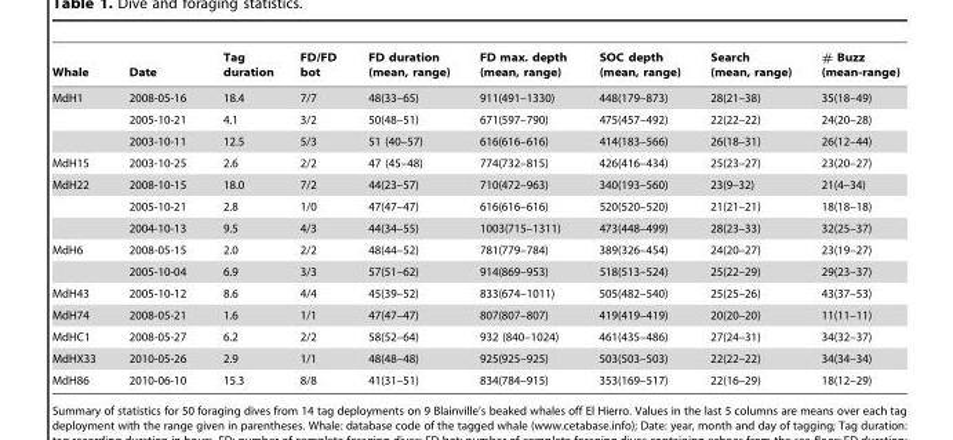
<table><thead><tr><td>Whale</td><td>Date</td><td>Tag duration</td><td>FD/FD bot</td><td>FD duration (mean, range)</td><td>FD max. depth (mean, range)</td><td>SOC depth (mean, range)</td><td>Search (mean, range)</td><td># Buzz (mean-range)</td></tr></thead><tbody><tr><td rowspan="3">MdH1</td><td>2008-05-16</td><td>18.4</td><td>7/7</td><td>48(33–65)</td><td>911(491–1330)</td><td>448(179–873)</td><td>28(21–38)</td><td>35(18–49)</td></tr><tr><td>2005-10-21</td><td>4.1</td><td>3/2</td><td>50(48–51)</td><td>671(597–790)</td><td>475(457–492)</td><td>22(22–22)</td><td>24(20–28)</td></tr><tr><td>2003-10-11</td><td>12.5</td><td>5/3</td><td>51 (40–57)</td><td>616(616–616)</td><td>414(183–566)</td><td>26(18–31)</td><td>26(12–44)</td></tr><tr><td>MdH15</td><td>2003-10-25</td><td>2.6</td><td>2/2</td><td>47 (45–48)</td><td>774(732–815)</td><td>426(416–434)</td><td>25(23–27)</td><td>23(20–27)</td></tr><tr><td rowspan="3">MdH22</td><td>2008-10-15</td><td>18.0</td><td>7/2</td><td>44(23–57)</td><td>710(472–963)</td><td>340(193–560)</td><td>23(9–32)</td><td>21(4–34)</td></tr><tr><td>2005-10-21</td><td>2.8</td><td>1/0</td><td>47(47–47)</td><td>616(616–616)</td><td>520(520–520)</td><td>21(21–21)</td><td>18(18–18)</td></tr><tr><td>2004-10-13</td><td>9.5</td><td>4/3</td><td>44(34–55)</td><td>1003(715–1311)</td><td>473(448–499)</td><td>28(23–33)</td><td>32(25–37)</td></tr><tr><td rowspan="2">MdH6</td><td>2008-05-15</td><td>2.0</td><td>2/2</td><td>48(44–52)</td><td>781(779–784)</td><td>389(326–454)</td><td>24(20–27)</td><td>23(19–27)</td></tr><tr><td>2005-10-04</td><td>6.9</td><td>3/3</td><td>57(51–62)</td><td>914(869–953)</td><td>518(513–524)</td><td>25(22–29)</td><td>29(23–37)</td></tr><tr><td>MdH43</td><td>2005-10-12</td><td>8.6</td><td>4/4</td><td>45(39–52)</td><td>833(674–1011)</td><td>505(482–540)</td><td>25(25–26)</td><td>43(37–53)</td></tr><tr><td>MdH74</td><td>2008-05-21</td><td>1.6</td><td>1/1</td><td>47(47–47)</td><td>807(807–807)</td><td>419(419–419)</td><td>20(20–20)</td><td>11(11–11)</td></tr><tr><td>MdHC1</td><td>2008-05-27</td><td>6.2</td><td>2/2</td><td>58(52–64)</td><td>932 (840–1024)</td><td>461(435–486)</td><td>27(24–31)</td><td>34(32–37)</td></tr><tr><td>MdHX33</td><td>2010-05-26</td><td>2.9</td><td>1/1</td><td>48(48–48)</td><td>925(925–925)</td><td>503(503–503)</td><td>22(22–22)</td><td>34(34–34)</td></tr><tr><td>MdH86</td><td>2010-06-10</td><td>15.3</td><td>8/8</td><td>41(31–51)</td><td>834(784–915)</td><td>353(169–517)</td><td>22(16–29)</td><td>18(12–29)</td></tr></tbody></table>